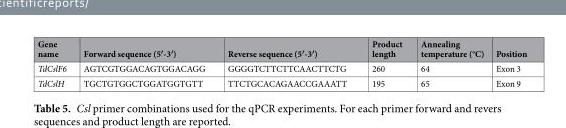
<table><thead><tr><td>Gene name</td><td>Forward sequence (5′-3′)</td><td>Reverse sequence (5′-3′)</td><td>Product length</td><td>Annealing temperature (°C)</td><td>Position</td></tr></thead><tbody><tr><td>TdCslF6</td><td>AGTCGTGGACAGTGGACAGG</td><td>GGGGTCTTCTTCAACTTCTG</td><td>260</td><td>64</td><td>Exon 3</td></tr><tr><td>TdCslH</td><td>TGCTGTGGCTGGATGGTGTT</td><td>TTCTGCACAGAACCGAAATT</td><td>195</td><td>65</td><td>Exon 9</td></tr></tbody></table>